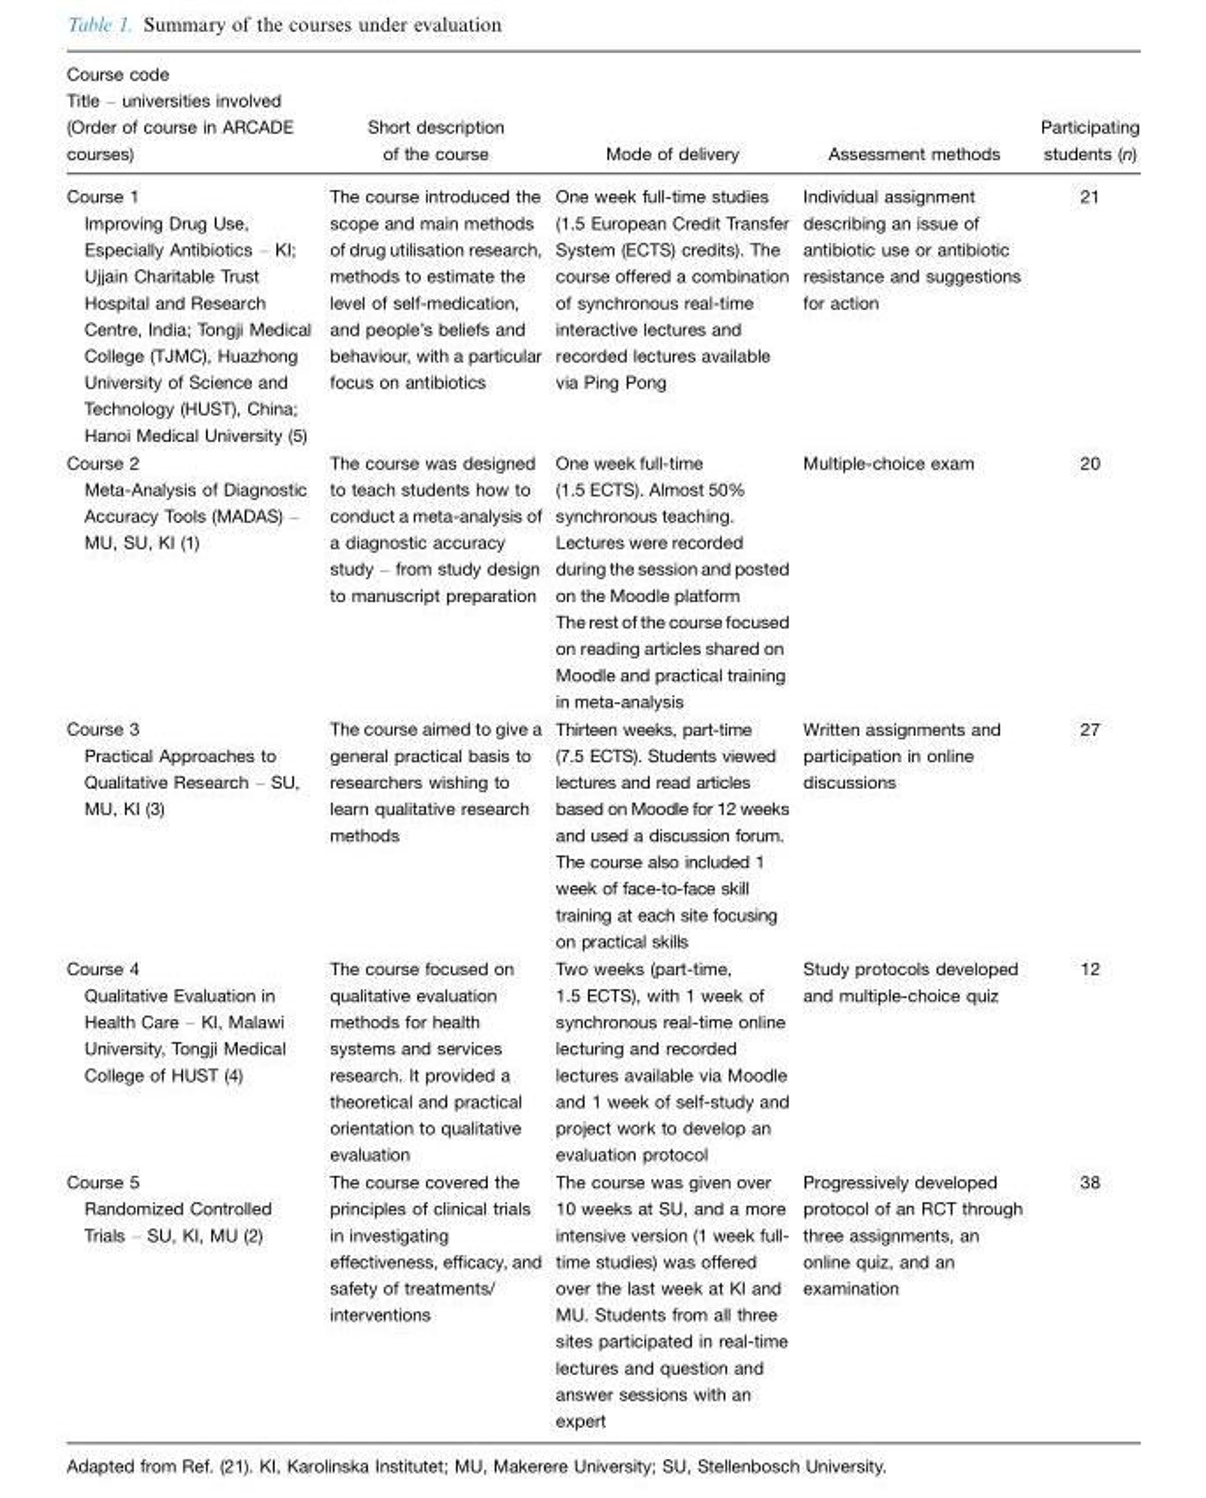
<table><thead><tr><td>Course code Title – universities involved (Order of course in ARCADE courses)</td><td>Short description of the course</td><td>Mode of delivery</td><td>Assessment methods</td><td>Participating students (n)</td></tr></thead><tbody><tr><td>Course 1 Improving Drug Use, Especially Antibiotics – KI; Ujjain Charitable Trust Hospital and Research Centre, India; Tongji Medical College (TJMC), Huazhong University of Science and Technology (HUST), China; Hanoi Medical University (5)</td><td>The course introduced the scope and main methods of drug utilisation research, methods to estimate the level of self-medication, and people’s beliefs and behaviour, with a particular focus on antibiotics</td><td>One week full-time studies (1.5 European Credit Transfer System (ECTS) credits). The course offered a combination of synchronous real-time interactive lectures and recorded lectures available via Ping Pong</td><td>Individual assignment describing an issue of antibiotic use or antibiotic resistance and suggestions for action</td><td>21</td></tr><tr><td>Course 2 Meta-Analysis of Diagnostic Accuracy Tools (MADAS) – MU, SU, KI (1)</td><td>The course was designed to teach students how to conduct a meta-analysis of a diagnostic accuracy study – from study design to manuscript preparation</td><td>One week full-time (1.5 ECTS). Almost 50% synchronous teaching. Lectures were recorded during the session and posted on the Moodle platform The rest of the course focused on reading articles shared on Moodle and practical training in meta-analysis</td><td>Multiple-choice exam</td><td>20</td></tr><tr><td>Course 3 Practical Approaches to Qualitative Research – SU, MU, KI (3)</td><td>The course aimed to give a general practical basis to researchers wishing to learn qualitative research methods</td><td>Thirteen weeks, part-time (7.5 ECTS). Students viewed lectures and read articles based on Moodle for 12 weeks and used a discussion forum. The course also included 1 week of face-to-face skill training at each site focusing on practical skills</td><td>Written assignments and participation in online discussions</td><td>27</td></tr><tr><td>Course 4 Qualitative Evaluation in Health Care – KI, Malawi University, Tongji Medical College of HUST (4)</td><td>The course focused on qualitative evaluation methods for health systems and services research. It provided a theoretical and practical orientation to qualitative evaluation</td><td>Two weeks (part-time, 1.5 ECTS), with 1 week of synchronous real-time online lecturing and recorded lectures available via Moodle and 1 week of self-study and project work to develop an evaluation protocol</td><td>Study protocols developed and multiple-choice quiz</td><td>12</td></tr><tr><td>Course 5 Randomized Controlled Trials – SU, KI, MU (2)</td><td>The course covered the principles of clinical trials in investigating effectiveness, efficacy, and safety of treatments/ interventions</td><td>The course was given over 10 weeks at SU, and a more intensive version (1 week full- time studies) was offered over the last week at KI and MU. Students from all three sites participated in real-time lectures and question and answer sessions with an expert</td><td>Progressively developed protocol of an RCT through three assignments, an online quiz, and an examination</td><td>38</td></tr></tbody></table>